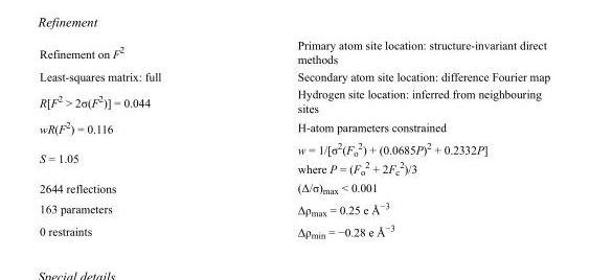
<table><tbody><tr><td>Refinement on F<sup>2</sup></td><td>Primary atom site location: structure-invariant direct methods</td></tr><tr><td>Least-squares matrix: full</td><td>Secondary atom site location: difference Fourier map</td></tr><tr><td>R[F<sup>2</sup> &gt; 2σ(F<sup>2</sup>)] = 0.044</td><td>Hydrogen site location: inferred from neighbouring sites</td></tr><tr><td>wR(F<sup>2</sup>) = 0.116</td><td>H-atom parameters constrained</td></tr><tr><td>S = 1.05</td><td>w = 1/[σ<sup>2</sup>(F<sub>o</sub> <sup>2</sup>) + (0.0685P)<sup>2</sup> + 0.2332P] where P = (F<sub>o</sub> <sup>2</sup> + 2F<sub>c</sub> <sup>2</sup>)/3</td></tr><tr><td>2644 reflections</td><td>(Δ/σ)<sub>max</sub> &lt; 0.001</td></tr><tr><td>163 parameters</td><td>Δρ<sub>max</sub> = 0.25 e Å<sup>−3</sup></td></tr><tr><td>0 restraints</td><td>Δρ<sub>min</sub> = −0.28 e Å<sup>−3</sup></td></tr></tbody></table>